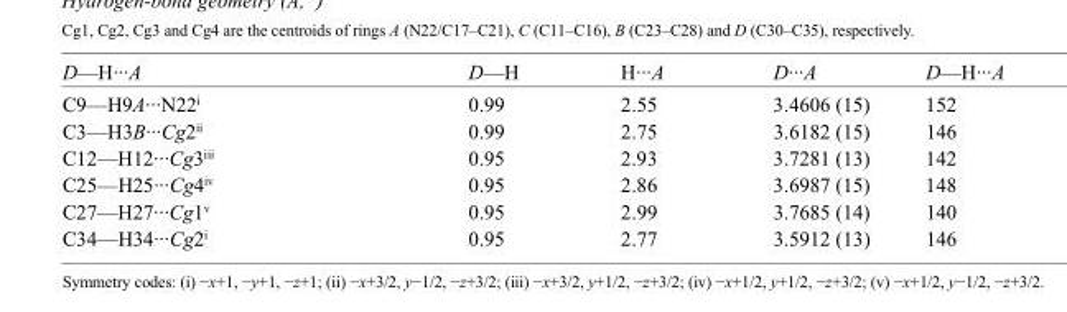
<table><tbody><tr><td>D—H···A</td><td>D—H</td><td>H···A</td><td>D···A</td><td>D—H···A</td></tr><tr><td>C9—H9A···N22<sup>i</sup></td><td>0.99</td><td>2.55</td><td>3.4606 (15)</td><td>152</td></tr><tr><td>C3—H3B···Cg2<sup>ii</sup></td><td>0.99</td><td>2.75</td><td>3.6182 (15)</td><td>146</td></tr><tr><td>C12—H12···Cg3<sup>iii</sup></td><td>0.95</td><td>2.93</td><td>3.7281 (13)</td><td>142</td></tr><tr><td>C25—H25···Cg4<sup>iv</sup></td><td>0.95</td><td>2.86</td><td>3.6987 (15)</td><td>148</td></tr><tr><td>C27—H27···Cg1<sup>v</sup></td><td>0.95</td><td>2.99</td><td>3.7685 (14)</td><td>140</td></tr><tr><td>C34—H34···Cg2<sup>i</sup></td><td>0.95</td><td>2.77</td><td>3.5912 (13)</td><td>146</td></tr></tbody></table>